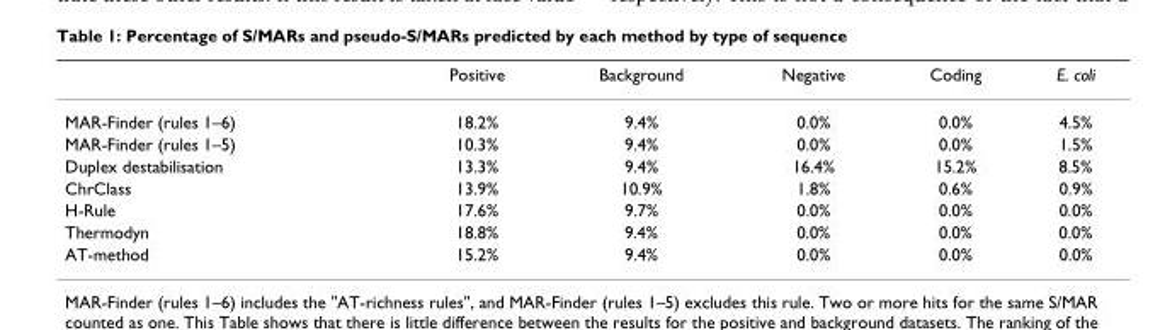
<table><thead><tr><td></td><td>Positive</td><td>Background</td><td>Negative</td><td>Coding</td><td>E. coli</td></tr></thead><tbody><tr><td>MAR-Finder (rules 1–6)</td><td>18.2%</td><td>9.4%</td><td>0.0%</td><td>0.0%</td><td>4.5%</td></tr><tr><td>MAR-Finder (rules 1–5)</td><td>10.3%</td><td>9.4%</td><td>0.0%</td><td>0.0%</td><td>1.5%</td></tr><tr><td>Duplex destabilisation</td><td>13.3%</td><td>9.4%</td><td>16.4%</td><td>15.2%</td><td>8.5%</td></tr><tr><td>ChrClass</td><td>13.9%</td><td>10.9%</td><td>1.8%</td><td>0.6%</td><td>0.9%</td></tr><tr><td>H-Rule</td><td>17.6%</td><td>9.7%</td><td>0.0%</td><td>0.0%</td><td>0.0%</td></tr><tr><td>Thermodyn</td><td>18.8%</td><td>9.4%</td><td>0.0%</td><td>0.0%</td><td>0.0%</td></tr><tr><td>AT-method</td><td>15.2%</td><td>9.4%</td><td>0.0%</td><td>0.0%</td><td>0.0%</td></tr></tbody></table>